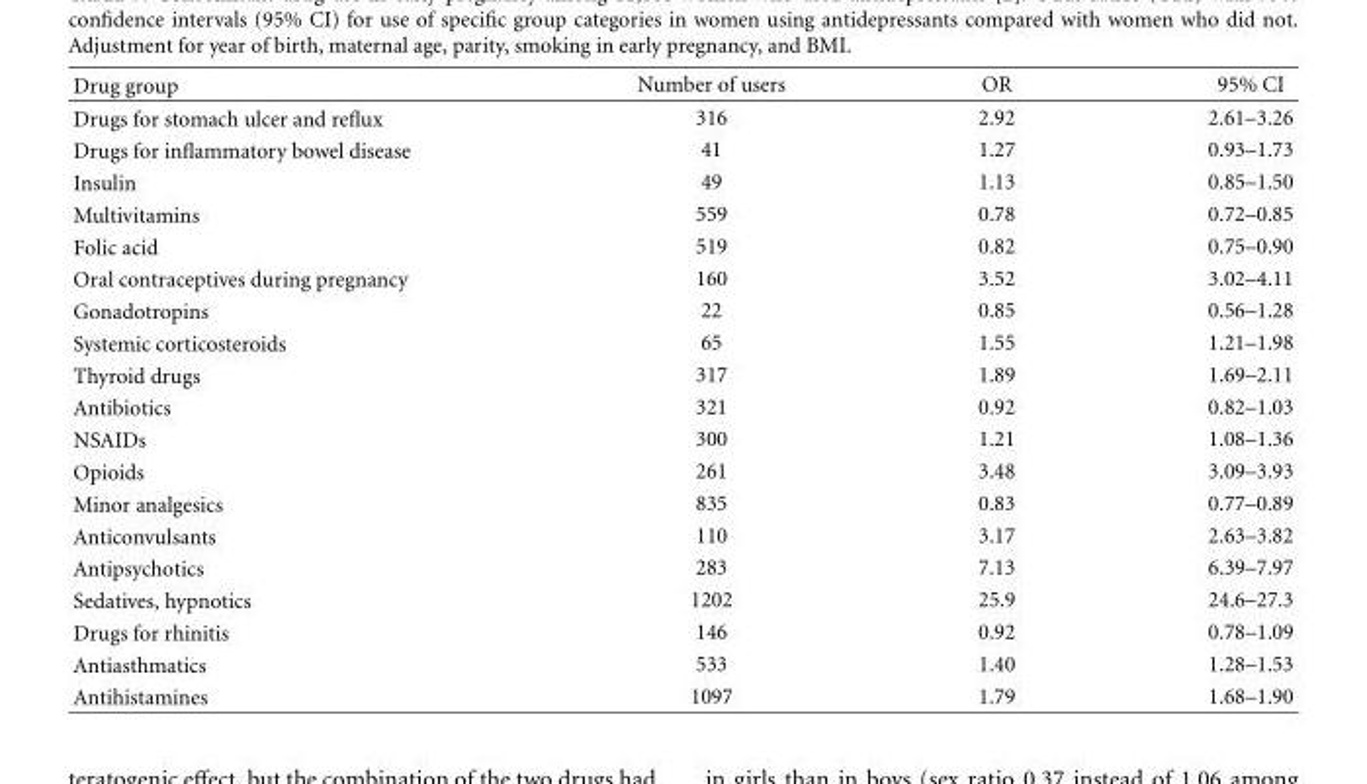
<table><thead><tr><td>Drug group</td><td>Number of users</td><td>OR</td><td>95% CI</td></tr></thead><tbody><tr><td>Drugs for stomach ulcer and reflux</td><td>316</td><td>2.92</td><td>2.61–3.26</td></tr><tr><td>Drugs for inflammatory bowel disease</td><td>41</td><td>1.27</td><td>0.93–1.73</td></tr><tr><td>Insulin</td><td>49</td><td>1.13</td><td>0.85–1.50</td></tr><tr><td>Multivitamins</td><td>559</td><td>0.78</td><td>0.72–0.85</td></tr><tr><td>Folic acid</td><td>519</td><td>0.82</td><td>0.75–0.90</td></tr><tr><td>Oral contraceptives during pregnancy</td><td>160</td><td>3.52</td><td>3.02–4.11</td></tr><tr><td>Gonadotropins</td><td>22</td><td>0.85</td><td>0.56–1.28</td></tr><tr><td>Systemic corticosteroids</td><td>65</td><td>1.55</td><td>1.21–1.98</td></tr><tr><td>Thyroid drugs</td><td>317</td><td>1.89</td><td>1.69–2.11</td></tr><tr><td>Antibiotics</td><td>321</td><td>0.92</td><td>0.82–1.03</td></tr><tr><td>NSAIDs</td><td>300</td><td>1.21</td><td>1.08–1.36</td></tr><tr><td>Opioids</td><td>261</td><td>3.48</td><td>3.09–3.93</td></tr><tr><td>Minor analgesics</td><td>835</td><td>0.83</td><td>0.77–0.89</td></tr><tr><td>Anticonvulsants</td><td>110</td><td>3.17</td><td>2.63–3.82</td></tr><tr><td>Antipsychotics</td><td>283</td><td>7.13</td><td>6.39–7.97</td></tr><tr><td>Sedatives, hypnotics</td><td>1202</td><td>25.9</td><td>24.6–27.3</td></tr><tr><td>Drugs for rhinitis</td><td>146</td><td>0.92</td><td>0.78–1.09</td></tr><tr><td>Antiasthmatics</td><td>533</td><td>1.40</td><td>1.28–1.53</td></tr><tr><td>Antihistamines</td><td>1097</td><td>1.79</td><td>1.68–1.90</td></tr></tbody></table>